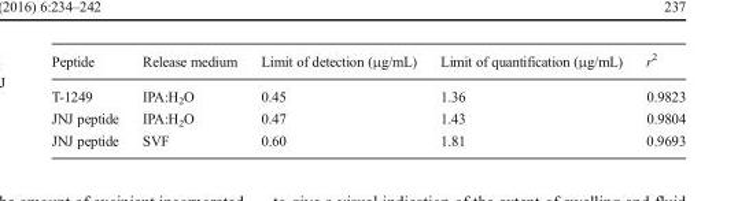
<table><thead><tr><td>Peptide</td><td>Release medium</td><td>Limit of detection (μg/mL)</td><td>Limit of quantification (μg/mL)</td><td>r<sup>2</sup></td></tr></thead><tbody><tr><td>T-1249</td><td>IPA:H<sub>2</sub>O</td><td>0.45</td><td>1.36</td><td>0.9823</td></tr><tr><td>JNJ peptide</td><td>IPA:H<sub>2</sub>O</td><td>0.47</td><td>1.43</td><td>0.9804</td></tr><tr><td>JNJ peptide</td><td>SVF</td><td>0.60</td><td>1.81</td><td>0.9693</td></tr></tbody></table>